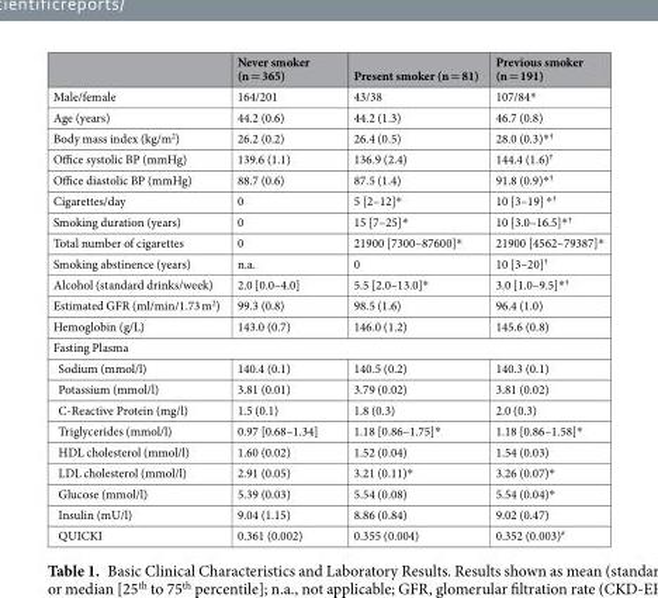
<table><thead><tr><td></td><td>Never smoker (n = 365)</td><td>Present smoker (n = 81)</td><td>Previous smoker (n = 191)</td></tr></thead><tbody><tr><td>Male/female</td><td>164/201</td><td>43/38</td><td>107/84*</td></tr><tr><td>Age (years)</td><td>44.2 (0.6)</td><td>44.2 (1.3)</td><td>46.7 (0.8)</td></tr><tr><td>Body mass index (kg/m<sup>2</sup>)</td><td>26.2 (0.2)</td><td>26.4 (0.5)</td><td>28.0 (0.3)*<sup>†</sup></td></tr><tr><td>Office systolic BP (mmHg)</td><td>139.6 (1.1)</td><td>136.9 (2.4)</td><td>144.4 (1.6)<sup>†</sup></td></tr><tr><td>Office diastolic BP (mmHg)</td><td>88.7 (0.6)</td><td>87.5 (1.4)</td><td>91.8 (0.9)*<sup>†</sup></td></tr><tr><td>Cigarettes/day</td><td>0</td><td>5 [2–12]*</td><td>10 [3–19] *<sup>†</sup></td></tr><tr><td>Smoking duration (years)</td><td>0</td><td>15 [7–25]*</td><td>10 [3.0–16.5]*<sup>†</sup></td></tr><tr><td>Total number of cigarettes</td><td>0</td><td>21900 [7300–87600]*</td><td>21900 [4562–79387]*</td></tr><tr><td>Smoking abstinence (years)</td><td>n.a.</td><td>0</td><td>10 [3–20]<sup>†</sup></td></tr><tr><td>Alcohol (standard drinks/week)</td><td>2.0 [0.0–4.0]</td><td>5.5 [2.0–13.0]*</td><td>3.0 [1.0–9.5]*<sup>†</sup></td></tr><tr><td>Estimated GFR (ml/min/1.73 m<sup>2</sup>)</td><td>99.3 (0.8)</td><td>98.5 (1.6)</td><td>96.4 (1.0)</td></tr><tr><td>Hemoglobin (g/L)</td><td>143.0 (0.7)</td><td>146.0 (1.2)</td><td>145.6 (0.8)</td></tr><tr><td colspan="4">Fasting Plasma</td></tr><tr><td>Sodium (mmol/l)</td><td>140.4 (0.1)</td><td>140.5 (0.2)</td><td>140.3 (0.1)</td></tr><tr><td>Potassium (mmol/l)</td><td>3.81 (0.01)</td><td>3.79 (0.02)</td><td>3.81 (0.02)</td></tr><tr><td>C-Reactive Protein (mg/l)</td><td>1.5 (0.1)</td><td>1.8 (0.3)</td><td>2.0 (0.3)</td></tr><tr><td>Triglycerides (mmol/l)</td><td>0.97 [0.68–1.34]</td><td>1.18 [0.86–1.75]*</td><td>1.18 [0.86–1.58]*</td></tr><tr><td>HDL cholesterol (mmol/l)</td><td>1.60 (0.02)</td><td>1.52 (0.04)</td><td>1.54 (0.03)</td></tr><tr><td>LDL cholesterol (mmol/l)</td><td>2.91 (0.05)</td><td>3.21 (0.11)*</td><td>3.26 (0.07)*</td></tr><tr><td>Glucose (mmol/l)</td><td>5.39 (0.03)</td><td>5.54 (0.08)</td><td>5.54 (0.04)*</td></tr><tr><td>Insulin (mU/l)</td><td>9.04 (1.15)</td><td>8.86 (0.84)</td><td>9.02 (0.47)</td></tr><tr><td>QUICKI</td><td>0.361 (0.002)</td><td>0.355 (0.004)</td><td>0.352 (0.003)<sup>#</sup></td></tr></tbody></table>